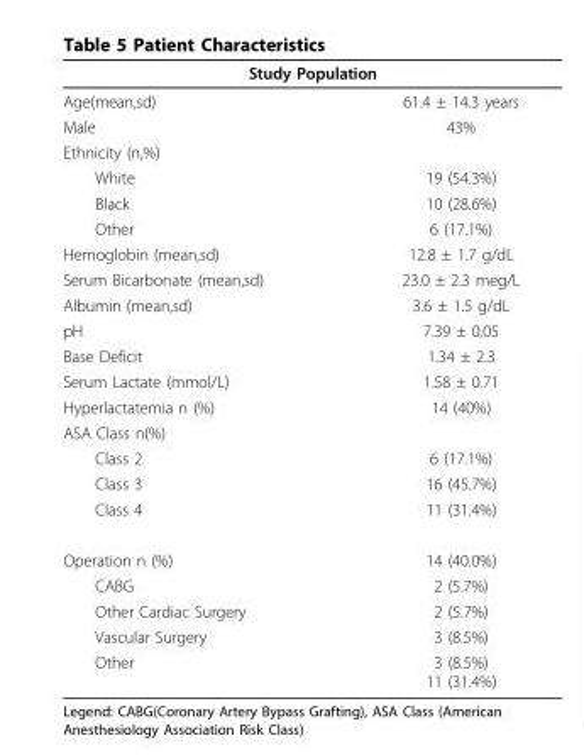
<table><thead><tr><td colspan="2">Study Population</td></tr><tr><td>Age(mean,sd)</td><td>61.4 ± 14.3 years</td></tr></thead><tbody><tr><td>Male</td><td>43%</td></tr><tr><td colspan="2">Ethnicity (n,%)</td></tr><tr><td>White</td><td>19 (54.3%)</td></tr><tr><td>Black</td><td>10 (28.6%)</td></tr><tr><td>Other</td><td>6 (17.1%)</td></tr><tr><td>Hemoglobin (mean,sd)</td><td>12.8 ± 1.7 g/dL</td></tr><tr><td>Serum Bicarbonate (mean,sd)</td><td>23.0 ± 2.3 meg/L</td></tr><tr><td>Albumin (mean,sd)</td><td>3.6 ± 1.5 g/dL</td></tr><tr><td>pH</td><td>7.39 ± 0.05</td></tr><tr><td>Base Deficit</td><td>1.34 ± 2.3</td></tr><tr><td>Serum Lactate (mmol/L)</td><td>1.58 ± 0.71</td></tr><tr><td>Hyperlactatemia n (%)</td><td>14 (40%)</td></tr><tr><td colspan="2">ASA Class n(%)</td></tr><tr><td>Class 2</td><td>6 (17.1%)</td></tr><tr><td>Class 3</td><td>16 (45.7%)</td></tr><tr><td>Class 4</td><td>11 (31.4%)</td></tr><tr><td>Operation n (%)</td><td>14 (40.0%)</td></tr><tr><td>CABG</td><td>2 (5.7%)</td></tr><tr><td>Other Cardiac Surgery</td><td>2 (5.7%)</td></tr><tr><td>Vascular Surgery</td><td>3 (8.5%)</td></tr><tr><td>Other</td><td>3 (8.5%) 11 (31.4%)</td></tr></tbody></table>